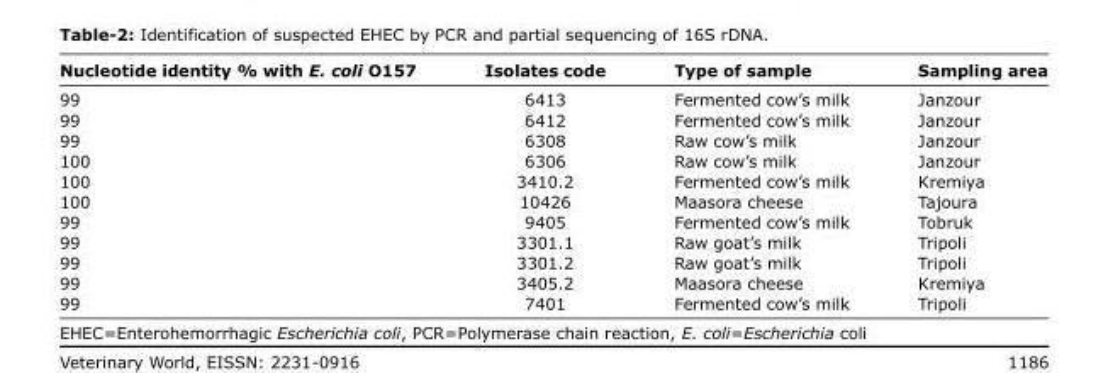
<table><thead><tr><td>Nucleotide identity % with E. coli O157</td><td>Isolates code</td><td>Type of sample</td><td>Sampling area</td></tr></thead><tbody><tr><td>99</td><td>6413</td><td>Fermented cow’s milk</td><td>Janzour</td></tr><tr><td>99</td><td>6412</td><td>Fermented cow’s milk</td><td>Janzour</td></tr><tr><td>99</td><td>6308</td><td>Raw cow’s milk</td><td>Janzour</td></tr><tr><td>100</td><td>6306</td><td>Raw cow’s milk</td><td>Janzour</td></tr><tr><td>100</td><td>3410.2</td><td>Fermented cow’s milk</td><td>Kremiya</td></tr><tr><td>100</td><td>10426</td><td>Maasora cheese</td><td>Tajoura</td></tr><tr><td>99</td><td>9405</td><td>Fermented cow’s milk</td><td>Tobruk</td></tr><tr><td>99</td><td>3301.1</td><td>Raw goat’s milk</td><td>Tripoli</td></tr><tr><td>99</td><td>3301.2</td><td>Raw goat’s milk</td><td>Tripoli</td></tr><tr><td>99</td><td>3405.2</td><td>Maasora cheese</td><td>Kremiya</td></tr><tr><td>99</td><td>7401</td><td>Fermented cow’s milk</td><td>Tripoli</td></tr></tbody></table>